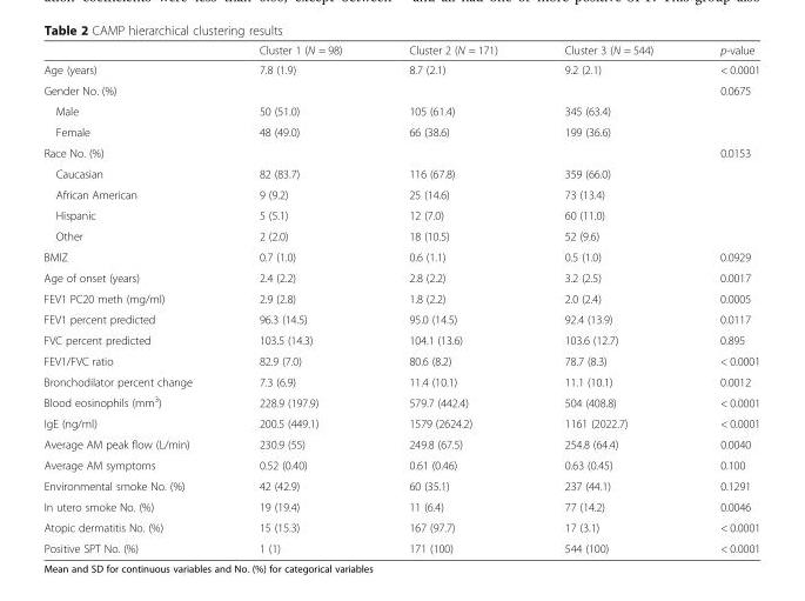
<table><thead><tr><td></td><td>Cluster 1 (N = 98)</td><td>Cluster 2 (N = 171)</td><td>Cluster 3 (N = 544)</td><td>p-value</td></tr></thead><tbody><tr><td>Age (years)</td><td>7.8 (1.9)</td><td>8.7 (2.1)</td><td>9.2 (2.1)</td><td>&lt; 0.0001</td></tr><tr><td>Gender No. (%)</td><td></td><td></td><td></td><td>0.0675</td></tr><tr><td>Male</td><td>50 (51.0)</td><td>105 (61.4)</td><td>345 (63.4)</td><td></td></tr><tr><td>Female</td><td>48 (49.0)</td><td>66 (38.6)</td><td>199 (36.6)</td><td></td></tr><tr><td>Race No. (%)</td><td></td><td></td><td></td><td>0.0153</td></tr><tr><td>Caucasian</td><td>82 (83.7)</td><td>116 (67.8)</td><td>359 (66.0)</td><td></td></tr><tr><td>African American</td><td>9 (9.2)</td><td>25 (14.6)</td><td>73 (13.4)</td><td></td></tr><tr><td>Hispanic</td><td>5 (5.1)</td><td>12 (7.0)</td><td>60 (11.0)</td><td></td></tr><tr><td>Other</td><td>2 (2.0)</td><td>18 (10.5)</td><td>52 (9.6)</td><td></td></tr><tr><td>BMIZ</td><td>0.7 (1.0)</td><td>0.6 (1.1)</td><td>0.5 (1.0)</td><td>0.0929</td></tr><tr><td>Age of onset (years)</td><td>2.4 (2.2)</td><td>2.8 (2.2)</td><td>3.2 (2.5)</td><td>0.0017</td></tr><tr><td>FEV1 PC20 meth (mg/ml)</td><td>2.9 (2.8)</td><td>1.8 (2.2)</td><td>2.0 (2.4)</td><td>0.0005</td></tr><tr><td>FEV1 percent predicted</td><td>96.3 (14.5)</td><td>95.0 (14.5)</td><td>92.4 (13.9)</td><td>0.0117</td></tr><tr><td>FVC percent predicted</td><td>103.5 (14.3)</td><td>104.1 (13.6)</td><td>103.6 (12.7)</td><td>0.895</td></tr><tr><td>FEV1/FVC ratio</td><td>82.9 (7.0)</td><td>80.6 (8.2)</td><td>78.7 (8.3)</td><td>&lt; 0.0001</td></tr><tr><td>Bronchodilator percent change</td><td>7.3 (6.9)</td><td>11.4 (10.1)</td><td>11.1 (10.1)</td><td>0.0012</td></tr><tr><td>Blood eosinophils (mm<sup>3</sup>)</td><td>228.9 (197.9)</td><td>579.7 (442.4)</td><td>504 (408.8)</td><td>&lt; 0.0001</td></tr><tr><td>IgE (ng/ml)</td><td>200.5 (449.1)</td><td>1579 (2624.2)</td><td>1161 (2022.7)</td><td>&lt; 0.0001</td></tr><tr><td>Average AM peak flow (L/min)</td><td>230.9 (55)</td><td>249.8 (67.5)</td><td>254.8 (64.4)</td><td>0.0040</td></tr><tr><td>Average AM symptoms</td><td>0.52 (0.40)</td><td>0.61 (0.46)</td><td>0.63 (0.45)</td><td>0.100</td></tr><tr><td>Environmental smoke No. (%)</td><td>42 (42.9)</td><td>60 (35.1)</td><td>237 (44.1)</td><td>0.1291</td></tr><tr><td>In utero smoke No. (%)</td><td>19 (19.4)</td><td>11 (6.4)</td><td>77 (14.2)</td><td>0.0046</td></tr><tr><td>Atopic dermatitis No. (%)</td><td>15 (15.3)</td><td>167 (97.7)</td><td>17 (3.1)</td><td>&lt; 0.0001</td></tr><tr><td>Positive SPT No. (%)</td><td>1 (1)</td><td>171 (100)</td><td>544 (100)</td><td>&lt; 0.0001</td></tr></tbody></table>